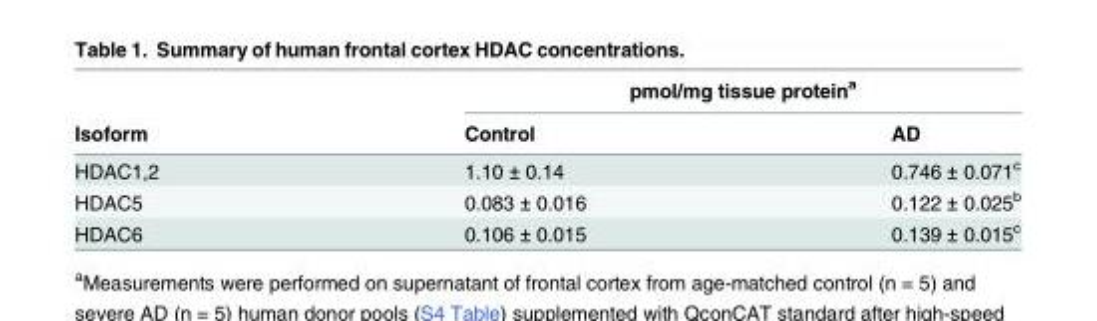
<table><thead><tr><td rowspan="2">Isoform</td><td colspan="2">pmol/mg tissue protein<sup>a</sup></td></tr><tr><td>Control</td><td>AD</td></tr></thead><tbody><tr><td>HDAC1,2</td><td>1.10 ± 0.14</td><td>0.746 ± 0.071<sup>c</sup></td></tr><tr><td>HDAC5</td><td>0.083 ± 0.016</td><td>0.122 ± 0.025<sup>b</sup></td></tr><tr><td>HDAC6</td><td>0.106 ± 0.015</td><td>0.139 ± 0.015<sup>c</sup></td></tr></tbody></table>